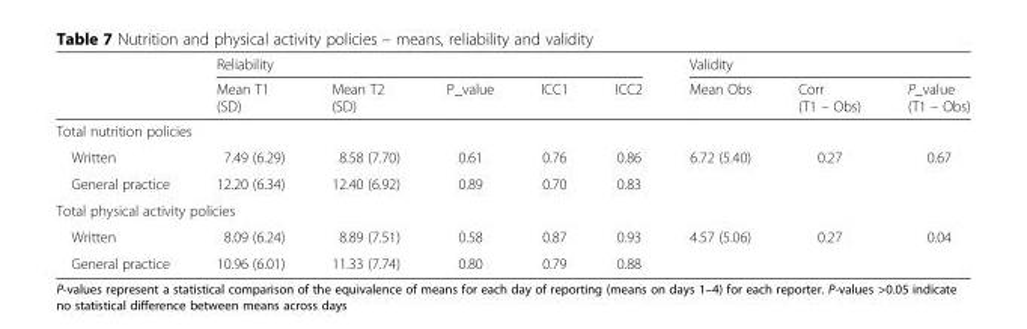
<table><thead><tr><td rowspan="2"></td><td colspan="5">Reliability</td><td colspan="3">Validity</td></tr><tr><td>Mean T1 (SD)</td><td>Mean T2 (SD)</td><td>P_value</td><td>ICC1</td><td>ICC2</td><td>Mean Obs</td><td>Corr (T1 – Obs)</td><td>P_value (T1 – Obs)</td></tr></thead><tbody><tr><td colspan="9">Total nutrition policies</td></tr><tr><td>Written</td><td>7.49 (6.29)</td><td>8.58 (7.70)</td><td>0.61</td><td>0.76</td><td>0.86</td><td>6.72 (5.40)</td><td>0.27</td><td>0.67</td></tr><tr><td>General practice</td><td>12.20 (6.34)</td><td>12.40 (6.92)</td><td>0.89</td><td>0.70</td><td>0.83</td><td></td><td></td><td></td></tr><tr><td colspan="9">Total physical activity policies</td></tr><tr><td>Written</td><td>8.09 (6.24)</td><td>8.89 (7.51)</td><td>0.58</td><td>0.87</td><td>0.93</td><td>4.57 (5.06)</td><td>0.27</td><td>0.04</td></tr><tr><td>General practice</td><td>10.96 (6.01)</td><td>11.33 (7.74)</td><td>0.80</td><td>0.79</td><td>0.88</td><td></td><td></td><td></td></tr></tbody></table>